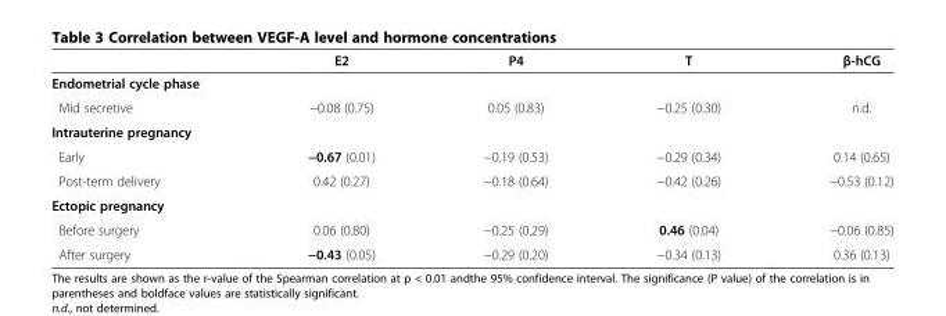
<table><thead><tr><td></td><td>E2</td><td>P4</td><td>T</td><td>β-hCG</td></tr></thead><tbody><tr><td colspan="5">Endometrial cycle phase</td></tr><tr><td>Mid secretive</td><td>−0.08 (0.75)</td><td>0.05 (0.83)</td><td>−0.25 (0.30)</td><td>n.d.</td></tr><tr><td colspan="5">Intrauterine pregnancy</td></tr><tr><td>Early</td><td>−0.67 (0.01)</td><td>−0.19 (0.53)</td><td>−0.29 (0.34)</td><td>0.14 (0.65)</td></tr><tr><td>Post-term delivery</td><td>0.42 (0.27)</td><td>−0.18 (0.64)</td><td>−0.42 (0.26)</td><td>−0.53 (0.12)</td></tr><tr><td colspan="5">Ectopic pregnancy</td></tr><tr><td>Before surgery</td><td>0.06 (0.80)</td><td>−0.25 (0.29)</td><td>0.46 (0.04)</td><td>−0.06 (0.85)</td></tr><tr><td>After surgery</td><td>−0.43 (0.05)</td><td>−0.29 (0.20)</td><td>−0.34 (0.13)</td><td>0.36 (0.13)</td></tr></tbody></table>